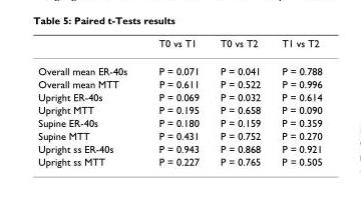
<table><thead><tr><td></td><td>T0 vs T1</td><td>T0 vs T2</td><td>T1 vs T2</td></tr></thead><tbody><tr><td>Overall mean ER-40s</td><td>P = 0.071</td><td>P = 0.041</td><td>P = 0.788</td></tr><tr><td>Overall mean MTT</td><td>P = 0.611</td><td>P = 0.522</td><td>P = 0.996</td></tr><tr><td>Upright ER-40s</td><td>P = 0.069</td><td>P = 0.032</td><td>P = 0.614</td></tr><tr><td>Upright MTT</td><td>P = 0.195</td><td>P = 0.658</td><td>P = 0.090</td></tr><tr><td>Supine ER-40s</td><td>P = 0.180</td><td>P = 0.159</td><td>P = 0.359</td></tr><tr><td>Supine MTT</td><td>P = 0.431</td><td>P = 0.752</td><td>P = 0.270</td></tr><tr><td>Upright ss ER-40s</td><td>P = 0.943</td><td>P = 0.868</td><td>P = 0.921</td></tr><tr><td>Upright ss MTT</td><td>P = 0.227</td><td>P = 0.765</td><td>P = 0.505</td></tr></tbody></table>